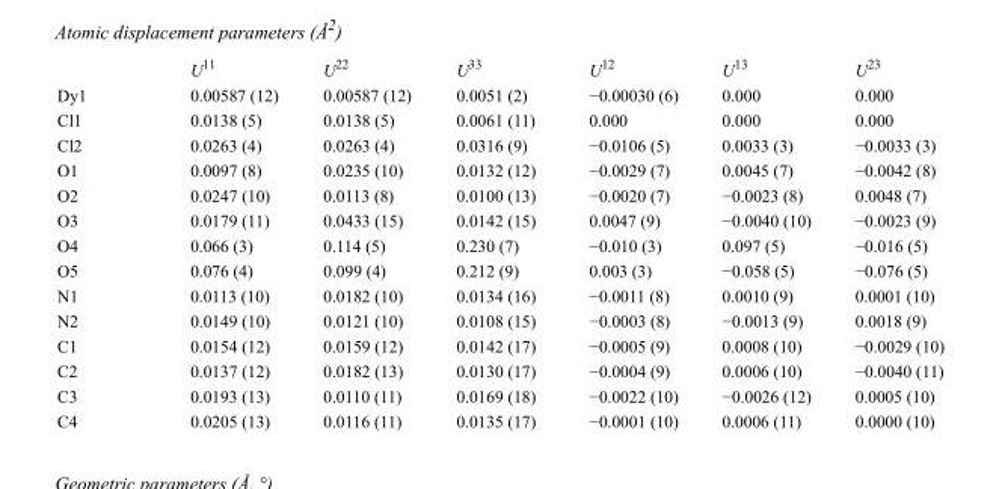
<table><thead><tr><td></td><td>U<sup>11</sup></td><td>U<sup>22</sup></td><td>U<sup>33</sup></td><td>U<sup>12</sup></td><td>U<sup>13</sup></td><td>U<sup>23</sup></td></tr></thead><tbody><tr><td>Dy1</td><td>0.00587 (12)</td><td>0.00587 (12)</td><td>0.0051 (2)</td><td>−0.00030 (6)</td><td>0.000</td><td>0.000</td></tr><tr><td>Cl1</td><td>0.0138 (5)</td><td>0.0138 (5)</td><td>0.0061 (11)</td><td>0.000</td><td>0.000</td><td>0.000</td></tr><tr><td>Cl2</td><td>0.0263 (4)</td><td>0.0263 (4)</td><td>0.0316 (9)</td><td>−0.0106 (5)</td><td>0.0033 (3)</td><td>−0.0033 (3)</td></tr><tr><td>O1</td><td>0.0097 (8)</td><td>0.0235 (10)</td><td>0.0132 (12)</td><td>−0.0029 (7)</td><td>0.0045 (7)</td><td>−0.0042 (8)</td></tr><tr><td>O2</td><td>0.0247 (10)</td><td>0.0113 (8)</td><td>0.0100 (13)</td><td>−0.0020 (7)</td><td>−0.0023 (8)</td><td>0.0048 (7)</td></tr><tr><td>O3</td><td>0.0179 (11)</td><td>0.0433 (15)</td><td>0.0142 (15)</td><td>0.0047 (9)</td><td>−0.0040 (10)</td><td>−0.0023 (9)</td></tr><tr><td>O4</td><td>0.066 (3)</td><td>0.114 (5)</td><td>0.230 (7)</td><td>−0.010 (3)</td><td>0.097 (5)</td><td>−0.016 (5)</td></tr><tr><td>O5</td><td>0.076 (4)</td><td>0.099 (4)</td><td>0.212 (9)</td><td>0.003 (3)</td><td>−0.058 (5)</td><td>−0.076 (5)</td></tr><tr><td>N1</td><td>0.0113 (10)</td><td>0.0182 (10)</td><td>0.0134 (16)</td><td>−0.0011 (8)</td><td>0.0010 (9)</td><td>0.0001 (10)</td></tr><tr><td>N2</td><td>0.0149 (10)</td><td>0.0121 (10)</td><td>0.0108 (15)</td><td>−0.0003 (8)</td><td>−0.0013 (9)</td><td>0.0018 (9)</td></tr><tr><td>C1</td><td>0.0154 (12)</td><td>0.0159 (12)</td><td>0.0142 (17)</td><td>−0.0005 (9)</td><td>0.0008 (10)</td><td>−0.0029 (10)</td></tr><tr><td>C2</td><td>0.0137 (12)</td><td>0.0182 (13)</td><td>0.0130 (17)</td><td>−0.0004 (9)</td><td>0.0006 (10)</td><td>−0.0040 (11)</td></tr><tr><td>C3</td><td>0.0193 (13)</td><td>0.0110 (11)</td><td>0.0169 (18)</td><td>−0.0022 (10)</td><td>−0.0026 (12)</td><td>0.0005 (10)</td></tr><tr><td>C4</td><td>0.0205 (13)</td><td>0.0116 (11)</td><td>0.0135 (17)</td><td>−0.0001 (10)</td><td>0.0006 (11)</td><td>0.0000 (10)</td></tr></tbody></table>